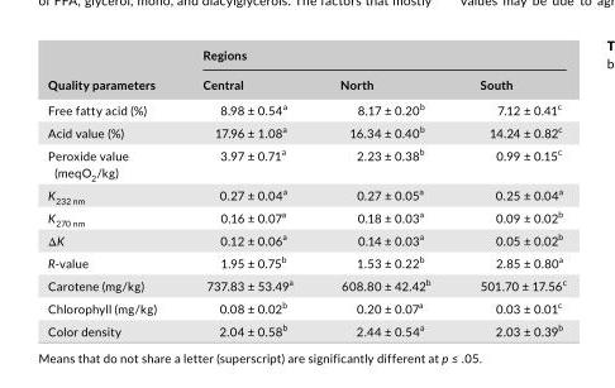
<table><thead><tr><td rowspan="2">Quality parameters</td><td colspan="3">Regions</td></tr><tr><td>Central</td><td>North</td><td>South</td></tr></thead><tbody><tr><td>Free fatty acid (%)</td><td>8.98 ± 0.54<sup>a</sup></td><td>8.17 ± 0.20<sup>b</sup></td><td>7.12 ± 0.41<sup>c</sup></td></tr><tr><td>Acid value (%)</td><td>17.96 ± 1.08<sup>a</sup></td><td>16.34 ± 0.40<sup>b</sup></td><td>14.24 ± 0.82<sup>c</sup></td></tr><tr><td>Peroxide value (meqO<sub>2</sub>/kg)</td><td>3.97 ± 0.71<sup>a</sup></td><td>2.23 ± 0.38<sup>b</sup></td><td>0.99 ± 0.15<sup>c</sup></td></tr><tr><td>K<sub>232 nm</sub></td><td>0.27 ± 0.04<sup>a</sup></td><td>0.27 ± 0.05<sup>a</sup></td><td>0.25 ± 0.04<sup>a</sup></td></tr><tr><td>K<sub>270 nm</sub></td><td>0.16 ± 0.07<sup>a</sup></td><td>0.18 ± 0.03<sup>a</sup></td><td>0.09 ± 0.02<sup>b</sup></td></tr><tr><td>ΔK</td><td>0.12 ± 0.06<sup>a</sup></td><td>0.14 ± 0.03<sup>a</sup></td><td>0.05 ± 0.02<sup>b</sup></td></tr><tr><td>R- value</td><td>1.95 ± 0.75<sup>b</sup></td><td>1.53 ± 0.22<sup>b</sup></td><td>2.85 ± 0.80<sup>a</sup></td></tr><tr><td>Carotene (mg/kg)</td><td>737.83 ± 53.49<sup>a</sup></td><td>608.80 ± 42.42<sup>b</sup></td><td>501.70 ± 17.56<sup>c</sup></td></tr><tr><td>Chlorophyll (mg/kg)</td><td>0.08 ± 0.02<sup>b</sup></td><td>0.20 ± 0.07<sup>a</sup></td><td>0.03 ± 0.01<sup>c</sup></td></tr><tr><td>Color density</td><td>2.04 ± 0.58<sup>b</sup></td><td>2.44 ± 0.54<sup>a</sup></td><td>2.03 ± 0.39<sup>b</sup></td></tr></tbody></table>